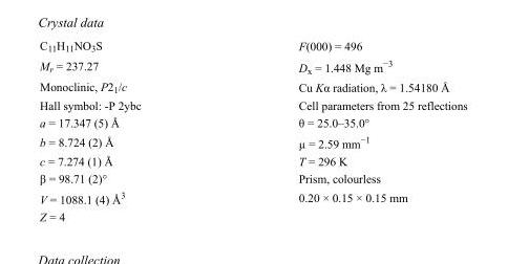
<table><tbody><tr><td>C<sub>11</sub>H<sub>11</sub>NO<sub>3</sub>S</td><td>F(000) = 496</td></tr><tr><td>M<sub>r</sub> = 237.27</td><td>D<sub>x</sub> = 1.448 Mg m<sup>−3</sup></td></tr><tr><td>Monoclinic, P2<sub>1</sub>/c</td><td>Cu Kα radiation, λ = 1.54180 Å</td></tr><tr><td>Hall symbol: -P 2ybc</td><td>Cell parameters from 25 reflections</td></tr><tr><td>a = 17.347 (5) Å</td><td>θ = 25.0–35.0°</td></tr><tr><td>b = 8.724 (2) Å</td><td>µ = 2.59 mm<sup>−1</sup></td></tr><tr><td>c = 7.274 (1) Å</td><td>T = 296 K</td></tr><tr><td>β = 98.71 (2)°</td><td>Prism, colourless</td></tr><tr><td>V = 1088.1 (4) Å<sup>3</sup></td><td>0.20 × 0.15 × 0.15 mm</td></tr><tr><td>Z = 4</td><td></td></tr></tbody></table>